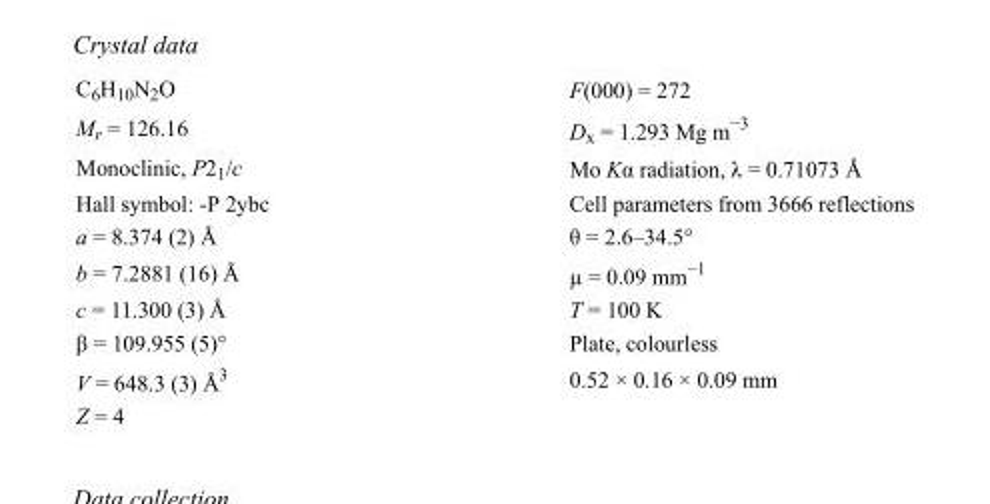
<table><tbody><tr><td>C<sub>6</sub>H<sub>10</sub>N<sub>2</sub>O</td><td>F(000) = 272</td></tr><tr><td>M<sub>r</sub> = 126.16</td><td>D<sub>x</sub> = 1.293 Mg m<sup>−3</sup></td></tr><tr><td>Monoclinic, P2<sub>1</sub>/c</td><td>Mo Kα radiation, λ = 0.71073 Å</td></tr><tr><td>Hall symbol: -P 2ybc</td><td>Cell parameters from 3666 reflections</td></tr><tr><td>a = 8.374 (2) Å</td><td>θ = 2.6–34.5°</td></tr><tr><td>b = 7.2881 (16) Å</td><td>µ = 0.09 mm<sup>−1</sup></td></tr><tr><td>c = 11.300 (3) Å</td><td>T = 100 K</td></tr><tr><td>β = 109.955 (5)°</td><td>Plate, colourless</td></tr><tr><td>V = 648.3 (3) Å<sup>3</sup></td><td>0.52 × 0.16 × 0.09 mm</td></tr><tr><td>Z = 4</td><td></td></tr></tbody></table>